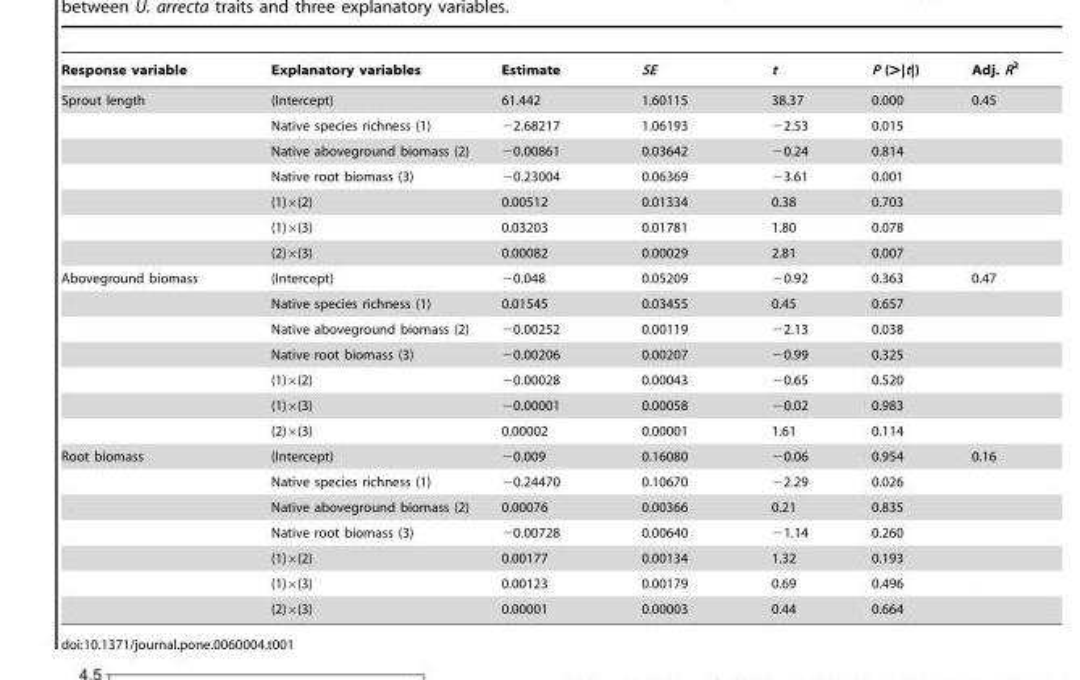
<table><thead><tr><td>Response variable</td><td>Explanatory variables</td><td>Estimate</td><td>SE</td><td>t</td><td>P (&gt;|t|)</td><td>Adj. R<sup>2</sup></td></tr></thead><tbody><tr><td rowspan="7">Sprout length</td><td>(Intercept)</td><td>61.442</td><td>1.60115</td><td>38.37</td><td>0.000</td><td>0.45</td></tr><tr><td>Native species richness (1)</td><td>−2.68217</td><td>1.06193</td><td>−2.53</td><td>0.015</td><td></td></tr><tr><td>Native aboveground biomass (2)</td><td>−0.00861</td><td>0.03642</td><td>−0.24</td><td>0.814</td><td></td></tr><tr><td>Native root biomass (3)</td><td>−0.23004</td><td>0.06369</td><td>−3.61</td><td>0.001</td><td></td></tr><tr><td>(1)×(2)</td><td>0.00512</td><td>0.01334</td><td>0.38</td><td>0.703</td><td></td></tr><tr><td>(1)×(3)</td><td>0.03203</td><td>0.01781</td><td>1.80</td><td>0.078</td><td></td></tr><tr><td>(2)×(3)</td><td>0.00082</td><td>0.00029</td><td>2.81</td><td>0.007</td><td></td></tr><tr><td rowspan="7">Aboveground biomass</td><td>(Intercept)</td><td>−0.048</td><td>0.05209</td><td>−0.92</td><td>0.363</td><td>0.47</td></tr><tr><td>Native species richness (1)</td><td>0.01545</td><td>0.03455</td><td>0.45</td><td>0.657</td><td></td></tr><tr><td>Native aboveground biomass (2)</td><td>−0.00252</td><td>0.00119</td><td>−2.13</td><td>0.038</td><td></td></tr><tr><td>Native root biomass (3)</td><td>−0.00206</td><td>0.00207</td><td>−0.99</td><td>0.325</td><td></td></tr><tr><td>(1)×(2)</td><td>−0.00028</td><td>0.00043</td><td>−0.65</td><td>0.520</td><td></td></tr><tr><td>(1)×(3)</td><td>−0.00001</td><td>0.00058</td><td>−0.02</td><td>0.983</td><td></td></tr><tr><td>(2)×(3)</td><td>0.00002</td><td>0.00001</td><td>1.61</td><td>0.114</td><td></td></tr><tr><td rowspan="7">Root biomass</td><td>(Intercept)</td><td>−0.009</td><td>0.16080</td><td>−0.06</td><td>0.954</td><td>0.16</td></tr><tr><td>Native species richness (1)</td><td>−0.24470</td><td>0.10670</td><td>−2.29</td><td>0.026</td><td></td></tr><tr><td>Native aboveground biomass (2)</td><td>0.00076</td><td>0.00366</td><td>0.21</td><td>0.835</td><td></td></tr><tr><td>Native root biomass (3)</td><td>−0.00728</td><td>0.00640</td><td>−1.14</td><td>0.260</td><td></td></tr><tr><td>(1)×(2)</td><td>0.00177</td><td>0.00134</td><td>1.32</td><td>0.193</td><td></td></tr><tr><td>(1)×(3)</td><td>0.00123</td><td>0.00179</td><td>0.69</td><td>0.496</td><td></td></tr><tr><td>(2)×(3)</td><td>0.00001</td><td>0.00003</td><td>0.44</td><td>0.664</td><td></td></tr></tbody></table>